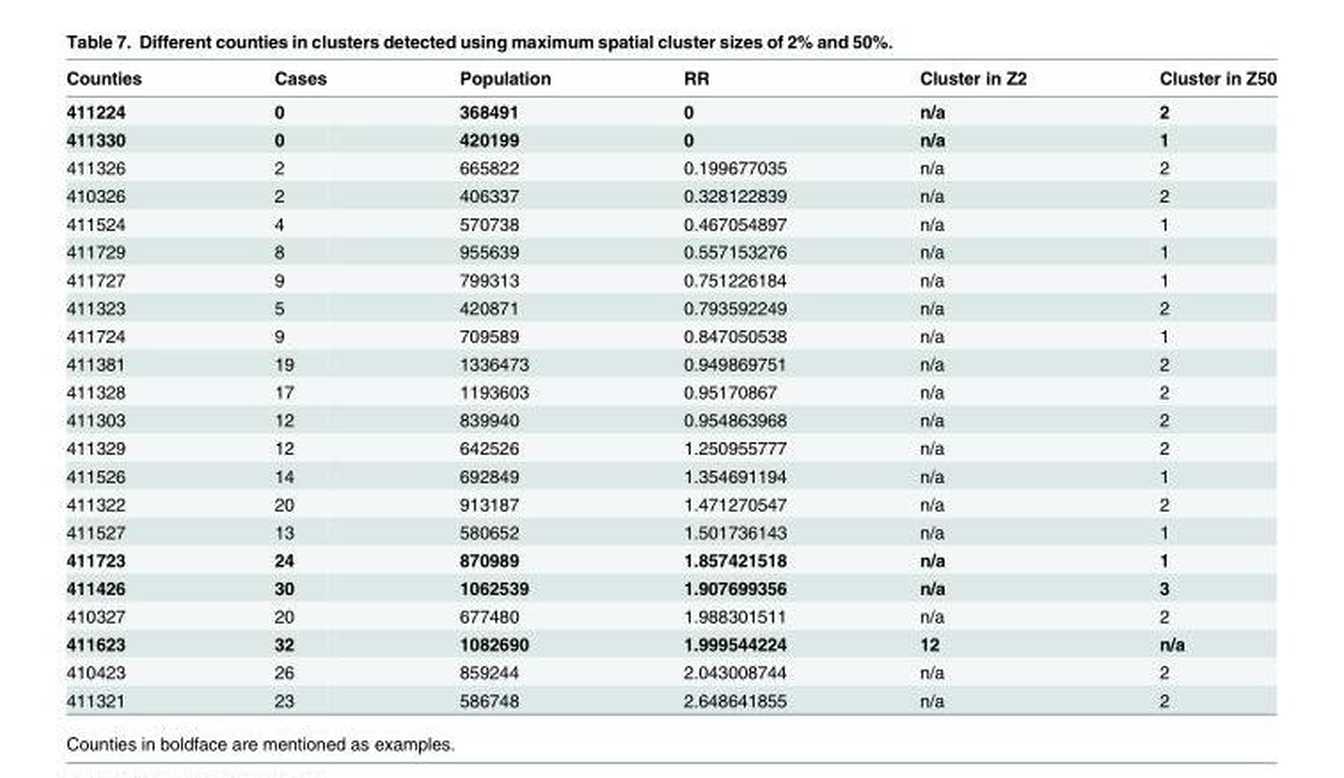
<table><thead><tr><td>Counties</td><td>Cases</td><td>Population</td><td>RR</td><td>Cluster in Z2</td><td>Cluster in Z50</td></tr></thead><tbody><tr><td>411224</td><td>0</td><td>368491</td><td>0</td><td>n/a</td><td>2</td></tr><tr><td>411330</td><td>0</td><td>420199</td><td>0</td><td>n/a</td><td>1</td></tr><tr><td>411326</td><td>2</td><td>665822</td><td>0.199677035</td><td>n/a</td><td>2</td></tr><tr><td>410326</td><td>2</td><td>406337</td><td>0.328122839</td><td>n/a</td><td>2</td></tr><tr><td>411524</td><td>4</td><td>570738</td><td>0.467054897</td><td>n/a</td><td>1</td></tr><tr><td>411729</td><td>8</td><td>955639</td><td>0.557153276</td><td>n/a</td><td>1</td></tr><tr><td>411727</td><td>9</td><td>799313</td><td>0.751226184</td><td>n/a</td><td>1</td></tr><tr><td>411323</td><td>5</td><td>420871</td><td>0.793592249</td><td>n/a</td><td>2</td></tr><tr><td>411724</td><td>9</td><td>709589</td><td>0.847050538</td><td>n/a</td><td>1</td></tr><tr><td>411381</td><td>19</td><td>1336473</td><td>0.949869751</td><td>n/a</td><td>2</td></tr><tr><td>411328</td><td>17</td><td>1193603</td><td>0.95170867</td><td>n/a</td><td>2</td></tr><tr><td>411303</td><td>12</td><td>839940</td><td>0.954863968</td><td>n/a</td><td>2</td></tr><tr><td>411329</td><td>12</td><td>642526</td><td>1.250955777</td><td>n/a</td><td>2</td></tr><tr><td>411526</td><td>14</td><td>692849</td><td>1.354691194</td><td>n/a</td><td>1</td></tr><tr><td>411322</td><td>20</td><td>913187</td><td>1.471270547</td><td>n/a</td><td>2</td></tr><tr><td>411527</td><td>13</td><td>580652</td><td>1.501736143</td><td>n/a</td><td>1</td></tr><tr><td>411723</td><td>24</td><td>870989</td><td>1.857421518</td><td>n/a</td><td>1</td></tr><tr><td>411426</td><td>30</td><td>1062539</td><td>1.907699356</td><td>n/a</td><td>3</td></tr><tr><td>410327</td><td>20</td><td>677480</td><td>1.988301511</td><td>n/a</td><td>2</td></tr><tr><td>411623</td><td>32</td><td>1082690</td><td>1.999544224</td><td>12</td><td>n/a</td></tr><tr><td>410423</td><td>26</td><td>859244</td><td>2.043008744</td><td>n/a</td><td>2</td></tr><tr><td>411321</td><td>23</td><td>586748</td><td>2.648641855</td><td>n/a</td><td>2</td></tr></tbody></table>